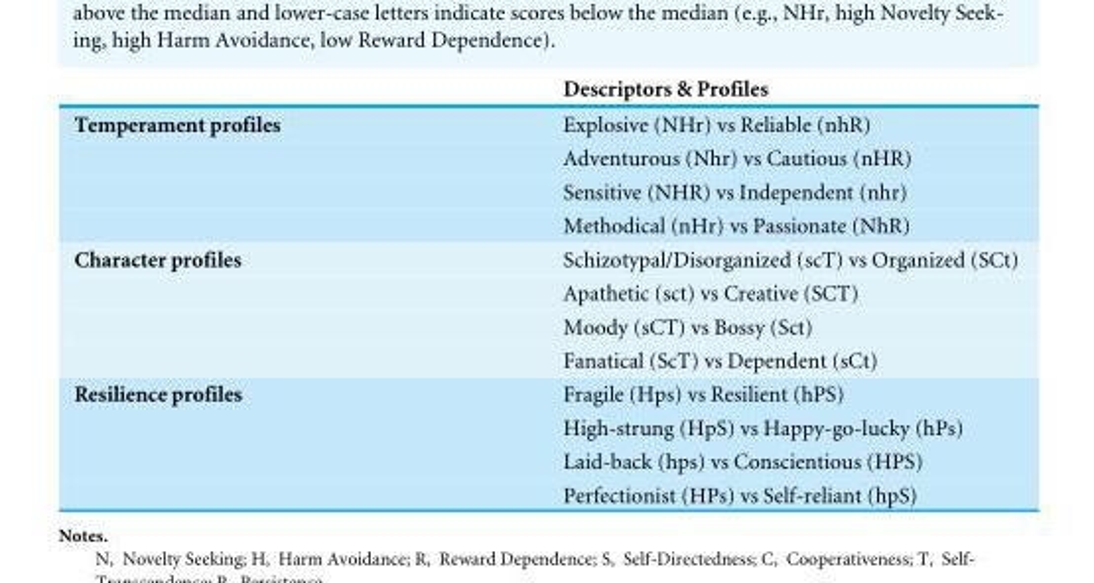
<table><thead><tr><td></td><td>Descriptors &amp; Profiles</td></tr></thead><tbody><tr><td rowspan="4">Temperament profiles</td><td>Explosive (NHr) vs Reliable (nhR)</td></tr><tr><td>Adventurous (Nhr) vs Cautious (nHR)</td></tr><tr><td>Sensitive (NHR) vs Independent (nhr)</td></tr><tr><td>Methodical (nHr) vs Passionate (NhR)</td></tr><tr><td rowspan="4">Character profiles</td><td>Schizotypal/Disorganized (scT) vs Organized (SCt)</td></tr><tr><td>Apathetic (sct) vs Creative (SCT)</td></tr><tr><td>Moody (sCT) vs Bossy (Sct)</td></tr><tr><td>Fanatical (ScT) vs Dependent (sCt)</td></tr><tr><td rowspan="4">Resilience profiles</td><td>Fragile (Hps) vs Resilient (hPS)</td></tr><tr><td>High-strung (HpS) vs Happy-go-lucky (hPs)</td></tr><tr><td>Laid-back (hps) vs Conscientious (HPS)</td></tr><tr><td>Perfectionist (HPs) vs Self-reliant (hpS)</td></tr></tbody></table>